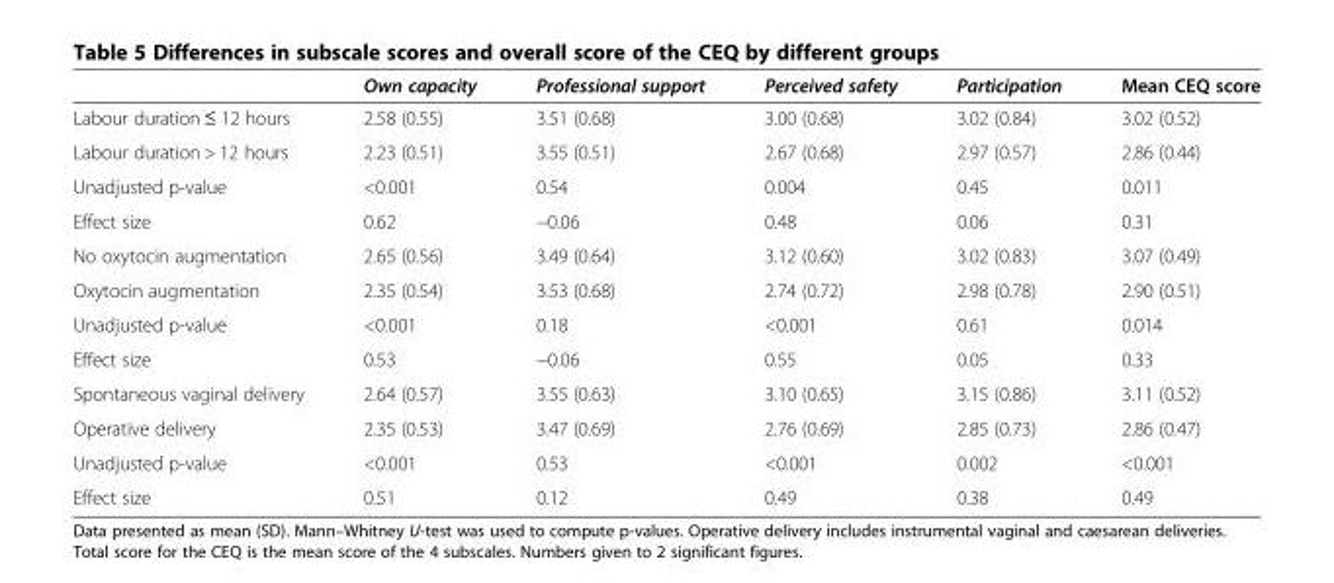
<table><thead><tr><td></td><td>Own capacity</td><td>Professional support</td><td>Perceived safety</td><td>Participation</td><td>Mean CEQ score</td></tr></thead><tbody><tr><td>Labour duration ≤ 12 hours</td><td>2.58 (0.55)</td><td>3.51 (0.68)</td><td>3.00 (0.68)</td><td>3.02 (0.84)</td><td>3.02 (0.52)</td></tr><tr><td>Labour duration &gt; 12 hours</td><td>2.23 (0.51)</td><td>3.55 (0.51)</td><td>2.67 (0.68)</td><td>2.97 (0.57)</td><td>2.86 (0.44)</td></tr><tr><td>Unadjusted p-value</td><td>&lt;0.001</td><td>0.54</td><td>0.004</td><td>0.45</td><td>0.011</td></tr><tr><td>Effect size</td><td>0.62</td><td>−0.06</td><td>0.48</td><td>0.06</td><td>0.31</td></tr><tr><td>No oxytocin augmentation</td><td>2.65 (0.56)</td><td>3.49 (0.64)</td><td>3.12 (0.60)</td><td>3.02 (0.83)</td><td>3.07 (0.49)</td></tr><tr><td>Oxytocin augmentation</td><td>2.35 (0.54)</td><td>3.53 (0.68)</td><td>2.74 (0.72)</td><td>2.98 (0.78)</td><td>2.90 (0.51)</td></tr><tr><td>Unadjusted p-value</td><td>&lt;0.001</td><td>0.18</td><td>&lt;0.001</td><td>0.61</td><td>0.014</td></tr><tr><td>Effect size</td><td>0.53</td><td>−0.06</td><td>0.55</td><td>0.05</td><td>0.33</td></tr><tr><td>Spontaneous vaginal delivery</td><td>2.64 (0.57)</td><td>3.55 (0.63)</td><td>3.10 (0.65)</td><td>3.15 (0.86)</td><td>3.11 (0.52)</td></tr><tr><td>Operative delivery</td><td>2.35 (0.53)</td><td>3.47 (0.69)</td><td>2.76 (0.69)</td><td>2.85 (0.73)</td><td>2.86 (0.47)</td></tr><tr><td>Unadjusted p-value</td><td>&lt;0.001</td><td>0.53</td><td>&lt;0.001</td><td>0.002</td><td>&lt;0.001</td></tr><tr><td>Effect size</td><td>0.51</td><td>0.12</td><td>0.49</td><td>0.38</td><td>0.49</td></tr></tbody></table>